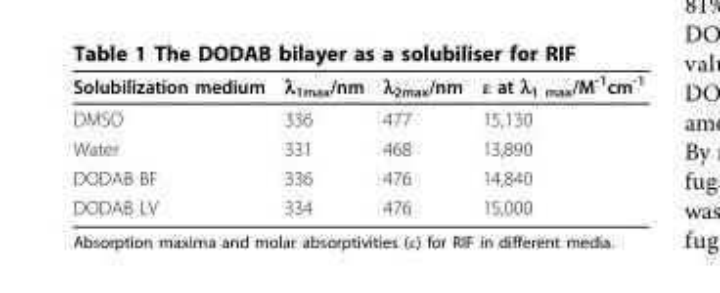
<table><thead><tr><td>Solubilization medium</td><td>λ<sub>1max</sub>/nm</td><td>λ<sub>2max</sub>/nm</td><td>ε at λ<sub>1 max</sub>/M<sup>-1</sup>cm<sup>-1</sup></td></tr></thead><tbody><tr><td>DMSO</td><td>336</td><td>477</td><td>15,130</td></tr><tr><td>Water</td><td>331</td><td>468</td><td>13,890</td></tr><tr><td>DODAB BF</td><td>336</td><td>476</td><td>14,840</td></tr><tr><td>DODAB LV</td><td>334</td><td>476</td><td>15,000</td></tr></tbody></table>